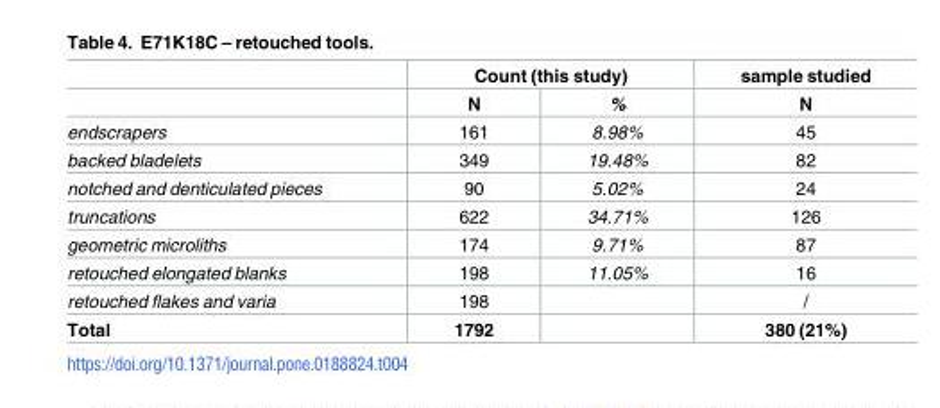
<table><thead><tr><td rowspan="2"></td><td colspan="2">Count (this study)</td><td rowspan="2">sample studied N</td></tr><tr><td>N</td><td>%</td></tr></thead><tbody><tr><td>endscrapers</td><td>161</td><td>8.98%</td><td>45</td></tr><tr><td>backed bladelets</td><td>349</td><td>19.48%</td><td>82</td></tr><tr><td>notched and denticulated pieces</td><td>90</td><td>5.02%</td><td>24</td></tr><tr><td>truncations</td><td>622</td><td>34.71%</td><td>126</td></tr><tr><td>geometric microliths</td><td>174</td><td>9.71%</td><td>87</td></tr><tr><td>retouched elongated blanks</td><td>198</td><td>11.05%</td><td>16</td></tr><tr><td>retouched flakes and varia</td><td>198</td><td></td><td>/</td></tr><tr><td>Total</td><td>1792</td><td></td><td>380 (21%)</td></tr></tbody></table>